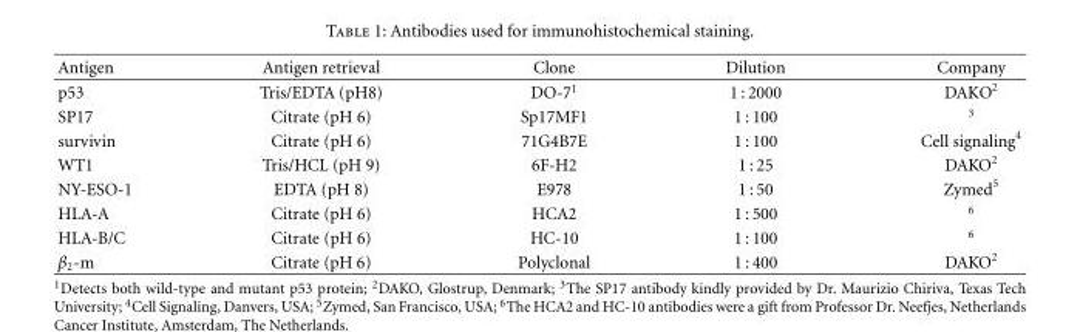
<table><thead><tr><td>Antigen</td><td>Antigen retrieval</td><td>Clone</td><td>Dilution</td><td>Company</td></tr></thead><tbody><tr><td>p53</td><td>Tris/EDTA (pH8)</td><td>DO-7<sup>1</sup></td><td>1 : 2000</td><td>DAKO<sup>2</sup></td></tr><tr><td>SP17</td><td>Citrate (pH 6)</td><td>Sp17MF1</td><td>1 : 100</td><td><sup>3</sup></td></tr><tr><td>survivin</td><td>Citrate (pH 6)</td><td>71G4B7E</td><td>1 : 100</td><td>Cell signaling<sup>4</sup></td></tr><tr><td>WT1</td><td>Tris/HCL (pH 9)</td><td>6F-H2</td><td>1 : 25</td><td>DAKO<sup>2</sup></td></tr><tr><td>NY-ESO-1</td><td>EDTA (pH 8)</td><td>E978</td><td>1 : 50</td><td>Zymed<sup>5</sup></td></tr><tr><td>HLA-A</td><td>Citrate (pH 6)</td><td>HCA2</td><td>1 : 500</td><td><sup>6</sup></td></tr><tr><td>HLA-B/C</td><td>Citrate (pH 6)</td><td>HC-10</td><td>1 : 100</td><td><sup>6</sup></td></tr><tr><td>β<sub>2</sub>-m</td><td>Citrate (pH 6)</td><td>Polyclonal</td><td>1 : 400</td><td>DAKO<sup>2</sup></td></tr></tbody></table>